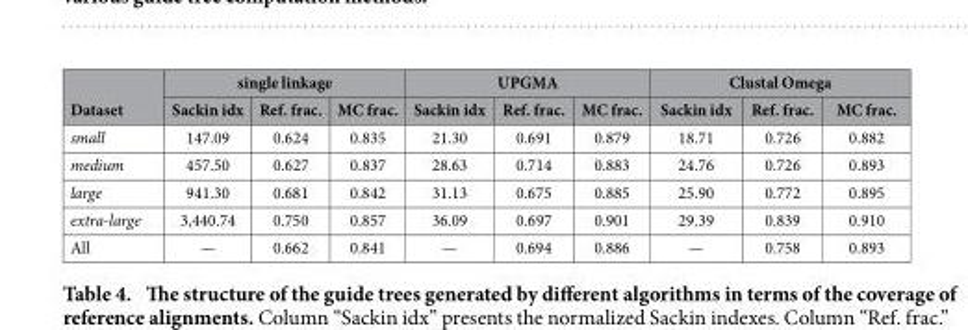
<table><thead><tr><td rowspan="2">Dataset</td><td colspan="3">single linkage</td><td colspan="3">UPGMA</td><td colspan="3">Clustal Omega</td></tr><tr><td>Sackin idx</td><td>Ref. frac.</td><td>MC frac.</td><td>Sackin idx</td><td>Ref. frac.</td><td>MC frac.</td><td>Sackin idx</td><td>Ref. frac.</td><td>MC frac.</td></tr></thead><tbody><tr><td>small</td><td>147.09</td><td>0.624</td><td>0.835</td><td>21.30</td><td>0.691</td><td>0.879</td><td>18.71</td><td>0.726</td><td>0.882</td></tr><tr><td>medium</td><td>457.50</td><td>0.627</td><td>0.837</td><td>28.63</td><td>0.714</td><td>0.883</td><td>24.76</td><td>0.726</td><td>0.893</td></tr><tr><td>large</td><td>941.30</td><td>0.681</td><td>0.842</td><td>31.13</td><td>0.675</td><td>0.885</td><td>25.90</td><td>0.772</td><td>0.895</td></tr><tr><td>extra-large</td><td>3,440.74</td><td>0.750</td><td>0.857</td><td>36.09</td><td>0.697</td><td>0.901</td><td>29.39</td><td>0.839</td><td>0.910</td></tr><tr><td>All</td><td>—</td><td>0.662</td><td>0.841</td><td>—</td><td>0.694</td><td>0.886</td><td>—</td><td>0.758</td><td>0.893</td></tr></tbody></table>